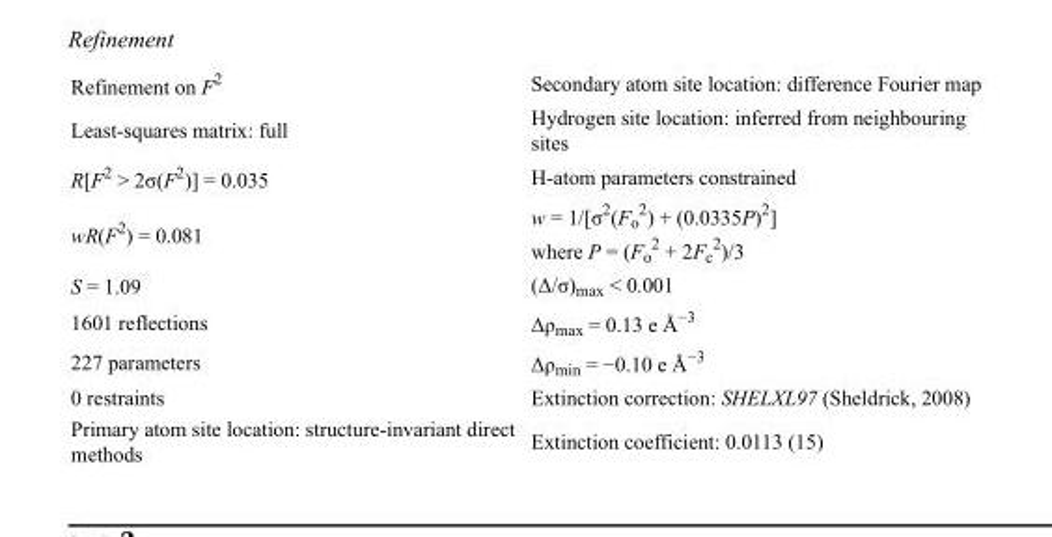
<table><tbody><tr><td>Refinement on F<sup>2</sup></td><td>Secondary atom site location: difference Fourier map</td></tr><tr><td>Least-squares matrix: full</td><td>Hydrogen site location: inferred from neighbouring sites</td></tr><tr><td>R[F<sup>2</sup> &gt; 2σ(F<sup>2</sup>)] = 0.035</td><td>H-atom parameters constrained</td></tr><tr><td>wR(F<sup>2</sup>) = 0.081</td><td>w = 1/[σ<sup>2</sup>(F<sub>o</sub> <sup>2</sup>) + (0.0335P)<sup>2</sup>] where P = (F<sub>o</sub> <sup>2</sup> + 2F<sub>c</sub> <sup>2</sup>)/3</td></tr><tr><td>S = 1.09</td><td>(Δ/σ)<sub>max</sub> &lt; 0.001</td></tr><tr><td>1601 reflections</td><td>Δρ<sub>max</sub> = 0.13 e Å<sup>−3</sup></td></tr><tr><td>227 parameters</td><td>Δρ<sub>min</sub> = −0.10 e Å<sup>−3</sup></td></tr><tr><td>0 restraints</td><td>Extinction correction: SHELXL97 (Sheldrick, 2008)</td></tr><tr><td>Primary atom site location: structure-invariant direct methods</td><td>Extinction coefficient: 0.0113 (15)</td></tr></tbody></table>